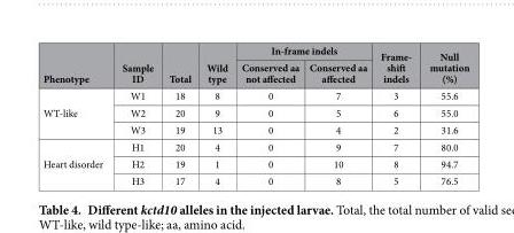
<table><thead><tr><td rowspan="2">Phenotype</td><td rowspan="2">Sample ID</td><td rowspan="2">Total</td><td rowspan="2">Wild type</td><td colspan="2">In-frame indels</td><td rowspan="2">Frame- shift indels</td><td rowspan="2">Null mutation (%)</td></tr><tr><td>Conserved aa not affected</td><td>Conserved aa affected</td></tr></thead><tbody><tr><td rowspan="3">WT-like</td><td>W1</td><td>18</td><td>8</td><td>0</td><td>7</td><td>3</td><td>55.6</td></tr><tr><td>W2</td><td>20</td><td>9</td><td>0</td><td>5</td><td>6</td><td>55.0</td></tr><tr><td>W3</td><td>19</td><td>13</td><td>0</td><td>4</td><td>2</td><td>31.6</td></tr><tr><td rowspan="3">Heart disorder</td><td>H1</td><td>20</td><td>4</td><td>0</td><td>9</td><td>7</td><td>80.0</td></tr><tr><td>H2</td><td>19</td><td>1</td><td>0</td><td>10</td><td>8</td><td>94.7</td></tr><tr><td>H3</td><td>17</td><td>4</td><td>0</td><td>8</td><td>5</td><td>76.5</td></tr></tbody></table>